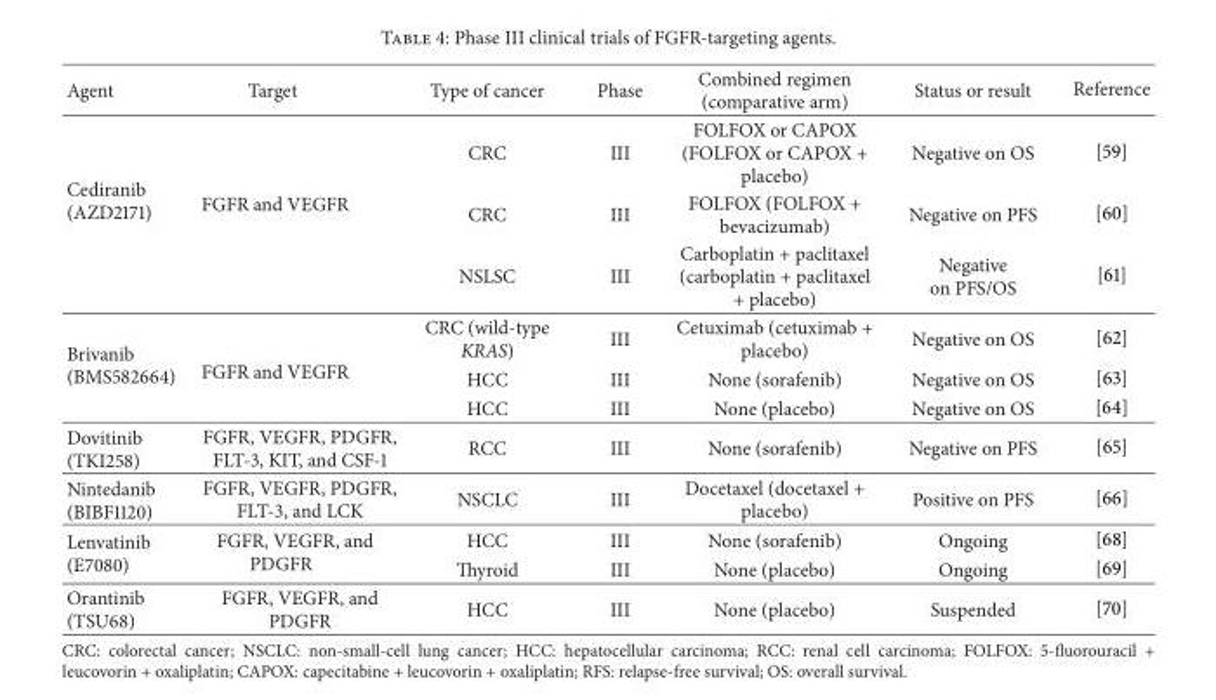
<table><thead><tr><td>Agent</td><td>Target</td><td>Type of cancer</td><td>Phase</td><td>Combined regimen (comparative arm)</td><td>Status or result</td><td>Reference</td></tr></thead><tbody><tr><td rowspan="3">Cediranib (AZD2171)</td><td rowspan="3">FGFR and VEGFR</td><td>CRC</td><td>III</td><td>FOLFOX or CAPOX (FOLFOX or CAPOX + placebo)</td><td>Negative on OS</td><td>[59]</td></tr><tr><td>CRC</td><td>III</td><td>FOLFOX (FOLFOX + bevacizumab)</td><td>Negative on PFS</td><td>[60]</td></tr><tr><td>NSLSC</td><td>III</td><td>Carboplatin + paclitaxel (carboplatin + paclitaxel + placebo)</td><td>Negative on PFS/OS</td><td>[61]</td></tr><tr><td rowspan="3">Brivanib (BMS582664)</td><td rowspan="3">FGFR and VEGFR</td><td>CRC (wild-type KRAS)</td><td>III</td><td>Cetuximab (cetuximab + placebo)</td><td>Negative on OS</td><td>[62]</td></tr><tr><td>HCC</td><td>III</td><td>None (sorafenib)</td><td>Negative on OS</td><td>[63]</td></tr><tr><td>HCC</td><td>III</td><td>None (placebo)</td><td>Negative on OS</td><td>[64]</td></tr><tr><td>Dovitinib (TKI258)</td><td>FGFR, VEGFR, PDGFR, FLT-3, KIT, and CSF-1</td><td>RCC</td><td>III</td><td>None (sorafenib)</td><td>Negative on PFS</td><td>[65]</td></tr><tr><td>Nintedanib (BIBF1120)</td><td>FGFR, VEGFR, PDGFR, FLT-3, and LCK</td><td>NSCLC</td><td>III</td><td>Docetaxel (docetaxel + placebo)</td><td>Positive on PFS</td><td>[66]</td></tr><tr><td rowspan="2">Lenvatinib (E7080)</td><td rowspan="2">FGFR, VEGFR, and PDGFR</td><td>HCC</td><td>III</td><td>None (sorafenib)</td><td>Ongoing</td><td>[68]</td></tr><tr><td>Thyroid</td><td>III</td><td>None (placebo)</td><td>Ongoing</td><td>[69]</td></tr><tr><td>Orantinib (TSU68)</td><td>FGFR, VEGFR, and PDGFR</td><td>HCC</td><td>III</td><td>None (placebo)</td><td>Suspended</td><td>[70]</td></tr></tbody></table>